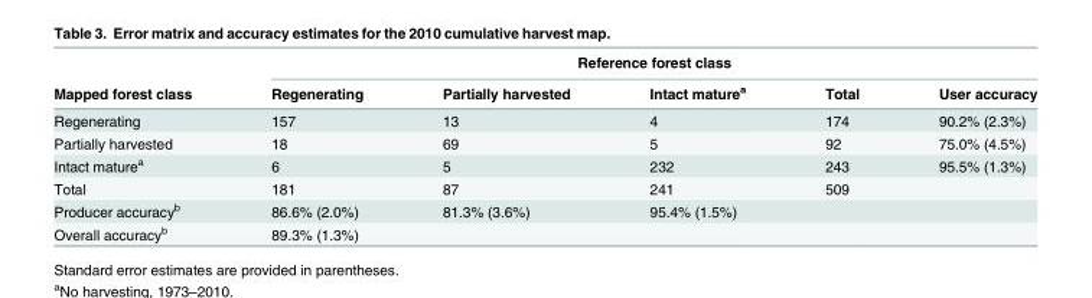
<table><thead><tr><td rowspan="2">Mapped forest class</td><td colspan="5">Reference forest class</td></tr><tr><td>Regenerating</td><td>Partially harvested</td><td>Intact mature<sup>a</sup></td><td>Total</td><td>User accuracy</td></tr></thead><tbody><tr><td>Regenerating</td><td>157</td><td>13</td><td>4</td><td>174</td><td>90.2% (2.3%)</td></tr><tr><td>Partially harvested</td><td>18</td><td>69</td><td>5</td><td>92</td><td>75.0% (4.5%)</td></tr><tr><td>Intact mature<sup>a</sup></td><td>6</td><td>5</td><td>232</td><td>243</td><td>95.5% (1.3%)</td></tr><tr><td>Total</td><td>181</td><td>87</td><td>241</td><td>509</td><td></td></tr><tr><td>Producer accuracy<sup>b</sup></td><td>86.6% (2.0%)</td><td>81.3% (3.6%)</td><td>95.4% (1.5%)</td><td></td><td></td></tr><tr><td>Overall accuracy<sup>b</sup></td><td>89.3% (1.3%)</td><td></td><td></td><td></td><td></td></tr></tbody></table>